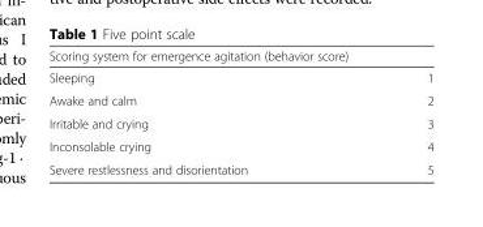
<table><thead><tr><td>Scoring system for emergence agitation (behavior score)</td><td></td></tr></thead><tbody><tr><td>Sleeping</td><td>1</td></tr><tr><td>Awake and calm</td><td>2</td></tr><tr><td>Irritable and crying</td><td>3</td></tr><tr><td>Inconsolable crying</td><td>4</td></tr><tr><td>Severe restlessness and disorientation</td><td>5</td></tr></tbody></table>